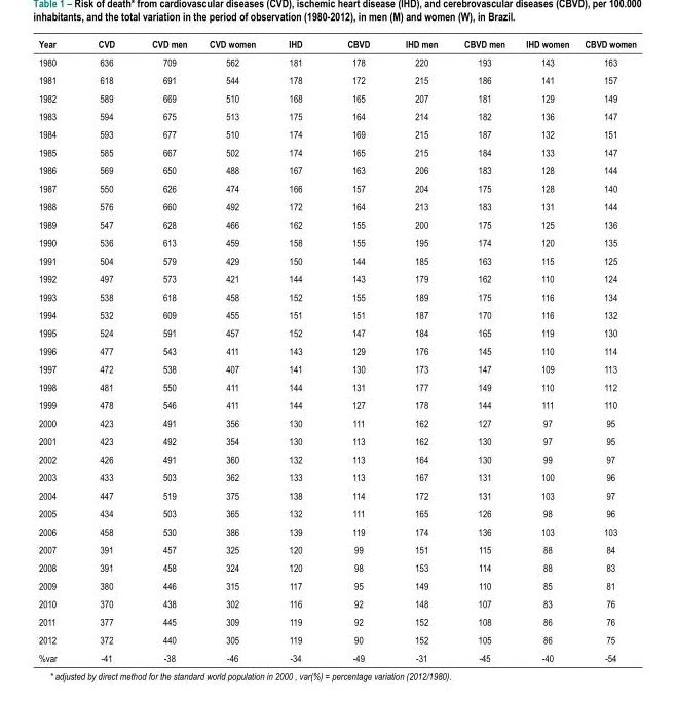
<table><thead><tr><td>Year</td><td>CVD</td><td>CVD men</td><td>CVD women</td><td>IHD</td><td>CBVD</td><td>IHD men</td><td>CBVD men</td><td>IHD women</td><td>CBVD women</td></tr></thead><tbody><tr><td>1980</td><td>636</td><td>709</td><td>562</td><td>181</td><td>178</td><td>220</td><td>193</td><td>143</td><td>163</td></tr><tr><td>1981</td><td>618</td><td>691</td><td>544</td><td>178</td><td>172</td><td>215</td><td>186</td><td>141</td><td>157</td></tr><tr><td>1982</td><td>589</td><td>669</td><td>510</td><td>168</td><td>165</td><td>207</td><td>181</td><td>129</td><td>149</td></tr><tr><td>1983</td><td>594</td><td>675</td><td>513</td><td>175</td><td>164</td><td>214</td><td>182</td><td>136</td><td>147</td></tr><tr><td>1984</td><td>593</td><td>677</td><td>510</td><td>174</td><td>169</td><td>215</td><td>187</td><td>132</td><td>151</td></tr><tr><td>1985</td><td>585</td><td>667</td><td>502</td><td>174</td><td>165</td><td>215</td><td>184</td><td>133</td><td>147</td></tr><tr><td>1986</td><td>569</td><td>650</td><td>488</td><td>167</td><td>163</td><td>206</td><td>183</td><td>128</td><td>144</td></tr><tr><td>1987</td><td>550</td><td>626</td><td>474</td><td>166</td><td>157</td><td>204</td><td>175</td><td>128</td><td>140</td></tr><tr><td>1988</td><td>576</td><td>660</td><td>492</td><td>172</td><td>164</td><td>213</td><td>183</td><td>131</td><td>144</td></tr><tr><td>1989</td><td>547</td><td>628</td><td>466</td><td>162</td><td>155</td><td>200</td><td>175</td><td>125</td><td>136</td></tr><tr><td>1990</td><td>536</td><td>613</td><td>459</td><td>158</td><td>155</td><td>195</td><td>174</td><td>120</td><td>135</td></tr><tr><td>1991</td><td>504</td><td>579</td><td>429</td><td>150</td><td>144</td><td>185</td><td>163</td><td>115</td><td>125</td></tr><tr><td>1992</td><td>497</td><td>573</td><td>421</td><td>144</td><td>143</td><td>179</td><td>162</td><td>110</td><td>124</td></tr><tr><td>1993</td><td>538</td><td>618</td><td>458</td><td>152</td><td>155</td><td>189</td><td>175</td><td>116</td><td>134</td></tr><tr><td>1994</td><td>532</td><td>609</td><td>455</td><td>151</td><td>151</td><td>187</td><td>170</td><td>116</td><td>132</td></tr><tr><td>1995</td><td>524</td><td>591</td><td>457</td><td>152</td><td>147</td><td>184</td><td>165</td><td>119</td><td>130</td></tr><tr><td>1996</td><td>477</td><td>543</td><td>411</td><td>143</td><td>129</td><td>176</td><td>145</td><td>110</td><td>114</td></tr><tr><td>1997</td><td>472</td><td>538</td><td>407</td><td>141</td><td>130</td><td>173</td><td>147</td><td>109</td><td>113</td></tr><tr><td>1998</td><td>481</td><td>550</td><td>411</td><td>144</td><td>131</td><td>177</td><td>149</td><td>110</td><td>112</td></tr><tr><td>1999</td><td>478</td><td>546</td><td>411</td><td>144</td><td>127</td><td>178</td><td>144</td><td>111</td><td>110</td></tr><tr><td>2000</td><td>423</td><td>491</td><td>356</td><td>130</td><td>111</td><td>162</td><td>127</td><td>97</td><td>95</td></tr><tr><td>2001</td><td>423</td><td>492</td><td>354</td><td>130</td><td>113</td><td>162</td><td>130</td><td>97</td><td>95</td></tr><tr><td>2002</td><td>426</td><td>491</td><td>360</td><td>132</td><td>113</td><td>164</td><td>130</td><td>99</td><td>97</td></tr><tr><td>2003</td><td>433</td><td>503</td><td>362</td><td>133</td><td>113</td><td>167</td><td>131</td><td>100</td><td>96</td></tr><tr><td>2004</td><td>447</td><td>519</td><td>375</td><td>138</td><td>114</td><td>172</td><td>131</td><td>103</td><td>97</td></tr><tr><td>2005</td><td>434</td><td>503</td><td>365</td><td>132</td><td>111</td><td>165</td><td>126</td><td>98</td><td>96</td></tr><tr><td>2006</td><td>458</td><td>530</td><td>386</td><td>139</td><td>119</td><td>174</td><td>136</td><td>103</td><td>103</td></tr><tr><td>2007</td><td>391</td><td>457</td><td>325</td><td>120</td><td>99</td><td>151</td><td>115</td><td>88</td><td>84</td></tr><tr><td>2008</td><td>391</td><td>458</td><td>324</td><td>120</td><td>98</td><td>153</td><td>114</td><td>88</td><td>83</td></tr><tr><td>2009</td><td>380</td><td>446</td><td>315</td><td>117</td><td>95</td><td>149</td><td>110</td><td>85</td><td>81</td></tr><tr><td>2010</td><td>370</td><td>438</td><td>302</td><td>116</td><td>92</td><td>148</td><td>107</td><td>83</td><td>76</td></tr><tr><td>2011</td><td>377</td><td>445</td><td>309</td><td>119</td><td>92</td><td>152</td><td>108</td><td>86</td><td>76</td></tr><tr><td>2012</td><td>372</td><td>440</td><td>305</td><td>119</td><td>90</td><td>152</td><td>105</td><td>86</td><td>75</td></tr><tr><td>%var</td><td>-41</td><td>-38</td><td>-46</td><td>-34</td><td>-49</td><td>-31</td><td>-45</td><td>-40</td><td>-54</td></tr></tbody></table>